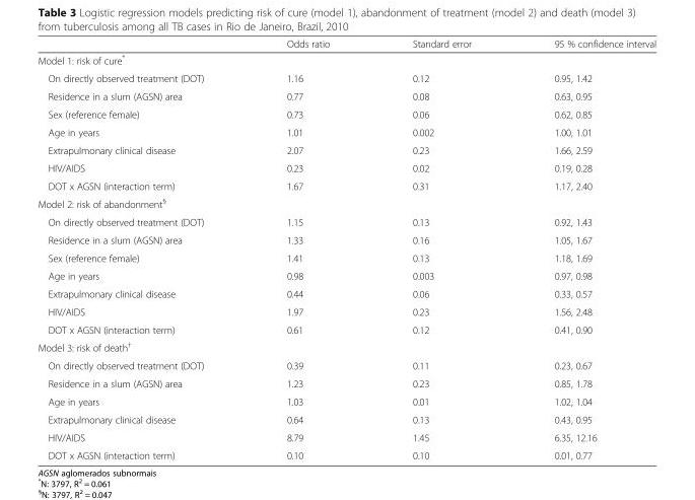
<table><thead><tr><td></td><td>Odds ratio</td><td>Standard error</td><td>95 % confidence interval</td></tr></thead><tbody><tr><td colspan="4">Model 1: risk of cure*</td></tr><tr><td>On directly observed treatment (DOT)</td><td>1.16</td><td>0.12</td><td>0.95, 1.42</td></tr><tr><td>Residence in a slum (AGSN) area</td><td>0.77</td><td>0.08</td><td>0.63, 0.95</td></tr><tr><td>Sex (reference female)</td><td>0.73</td><td>0.06</td><td>0.62, 0.85</td></tr><tr><td>Age in years</td><td>1.01</td><td>0.002</td><td>1.00, 1.01</td></tr><tr><td>Extrapulmonary clinical disease</td><td>2.07</td><td>0.23</td><td>1.66, 2.59</td></tr><tr><td>HIV/AIDS</td><td>0.23</td><td>0.02</td><td>0.19, 0.28</td></tr><tr><td>DOT x AGSN (interaction term)</td><td>1.67</td><td>0.31</td><td>1.17, 2.40</td></tr><tr><td colspan="4">Model 2: risk of abandonment<sup>§</sup></td></tr><tr><td>On directly observed treatment (DOT)</td><td>1.15</td><td>0.13</td><td>0.92, 1.43</td></tr><tr><td>Residence in a slum (AGSN) area</td><td>1.33</td><td>0.16</td><td>1.05, 1.67</td></tr><tr><td>Sex (reference female)</td><td>1.41</td><td>0.13</td><td>1.18, 1.69</td></tr><tr><td>Age in years</td><td>0.98</td><td>0.003</td><td>0.97, 0.98</td></tr><tr><td>Extrapulmonary clinical disease</td><td>0.44</td><td>0.06</td><td>0.33, 0.57</td></tr><tr><td>HIV/AIDS</td><td>1.97</td><td>0.23</td><td>1.56, 2.48</td></tr><tr><td>DOT x AGSN (interaction term)</td><td>0.61</td><td>0.12</td><td>0.41, 0.90</td></tr><tr><td colspan="4">Model 3: risk of death<sup>†</sup></td></tr><tr><td>On directly observed treatment (DOT)</td><td>0.39</td><td>0.11</td><td>0.23, 0.67</td></tr><tr><td>Residence in a slum (AGSN) area</td><td>1.23</td><td>0.23</td><td>0.85, 1.78</td></tr><tr><td>Age in years</td><td>1.03</td><td>0.01</td><td>1.02, 1.04</td></tr><tr><td>Extrapulmonary clinical disease</td><td>0.64</td><td>0.13</td><td>0.43, 0.95</td></tr><tr><td>HIV/AIDS</td><td>8.79</td><td>1.45</td><td>6.35, 12.16</td></tr><tr><td>DOT x AGSN (interaction term)</td><td>0.10</td><td>0.10</td><td>0.01, 0.77</td></tr></tbody></table>